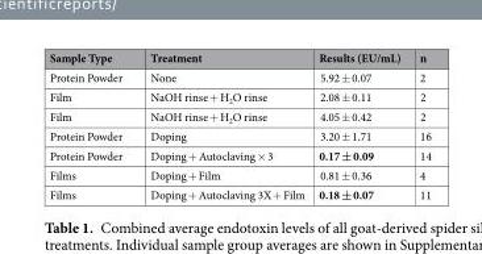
<table><thead><tr><td>Sample Type</td><td>Treatment</td><td>Results (EU/mL)</td><td>n</td></tr></thead><tbody><tr><td>Protein Powder</td><td>None</td><td>5.92 ± 0.07</td><td>2</td></tr><tr><td>Film</td><td>NaOH rinse + H<sub>2</sub>O rinse</td><td>2.08 ± 0.11</td><td>2</td></tr><tr><td>Film</td><td>NaOH rinse + H<sub>2</sub>O rinse</td><td>4.05 ± 0.42</td><td>2</td></tr><tr><td>Protein Powder</td><td>Doping</td><td>3.20 ± 1.71</td><td>16</td></tr><tr><td>Protein Powder</td><td>Doping + Autoclaving × 3</td><td>0.17 ± 0.09</td><td>14</td></tr><tr><td>Films</td><td>Doping + Film</td><td>0.81 ± 0.36</td><td>4</td></tr><tr><td>Films</td><td>Doping + Autoclaving 3X + Film</td><td>0.18 ± 0.07</td><td>11</td></tr></tbody></table>